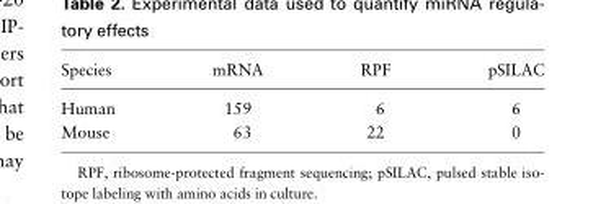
<table><thead><tr><td>Species</td><td>mRNA</td><td>RPF</td><td>pSILAC</td></tr></thead><tbody><tr><td>Human</td><td>159</td><td>6</td><td>6</td></tr><tr><td>Mouse</td><td>63</td><td>22</td><td>0</td></tr></tbody></table>